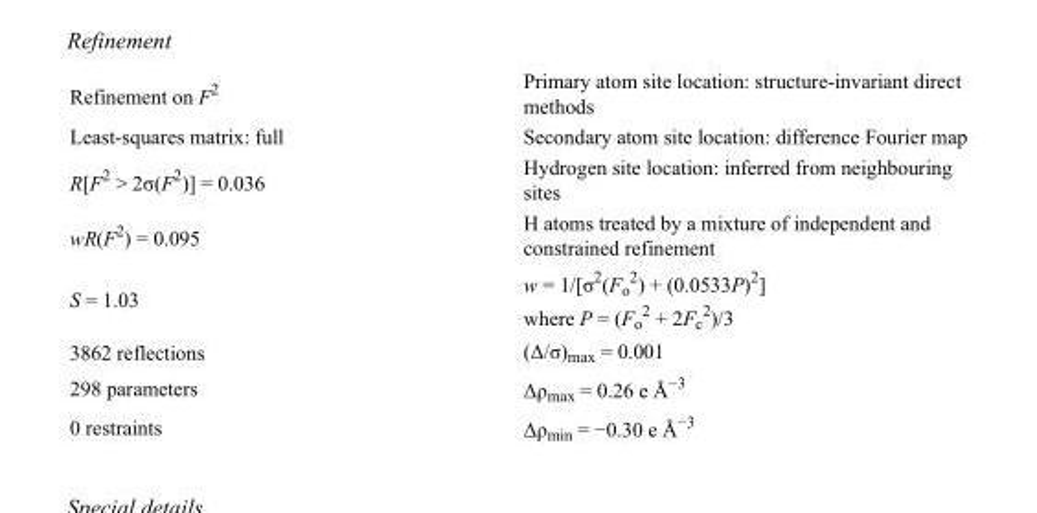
<table><tbody><tr><td>Refinement on F<sup>2</sup></td><td>Primary atom site location: structure-invariant direct methods</td></tr><tr><td>Least-squares matrix: full</td><td>Secondary atom site location: difference Fourier map</td></tr><tr><td>R[F<sup>2</sup> &gt; 2σ(F<sup>2</sup>)] = 0.036</td><td>Hydrogen site location: inferred from neighbouring sites</td></tr><tr><td>wR(F<sup>2</sup>) = 0.095</td><td>H atoms treated by a mixture of independent and constrained refinement</td></tr><tr><td>S = 1.03</td><td>w = 1/[σ<sup>2</sup>(F<sub>o</sub> <sup>2</sup>) + (0.0533P)<sup>2</sup>] where P = (F<sub>o</sub> <sup>2</sup> + 2F<sub>c</sub> <sup>2</sup>)/3</td></tr><tr><td>3862 reflections</td><td>(Δ/σ)<sub>max</sub> = 0.001</td></tr><tr><td>298 parameters</td><td>Δρ<sub>max</sub> = 0.26 e Å<sup>−3</sup></td></tr><tr><td>0 restraints</td><td>Δρ<sub>min</sub> = −0.30 e Å<sup>−3</sup></td></tr></tbody></table>